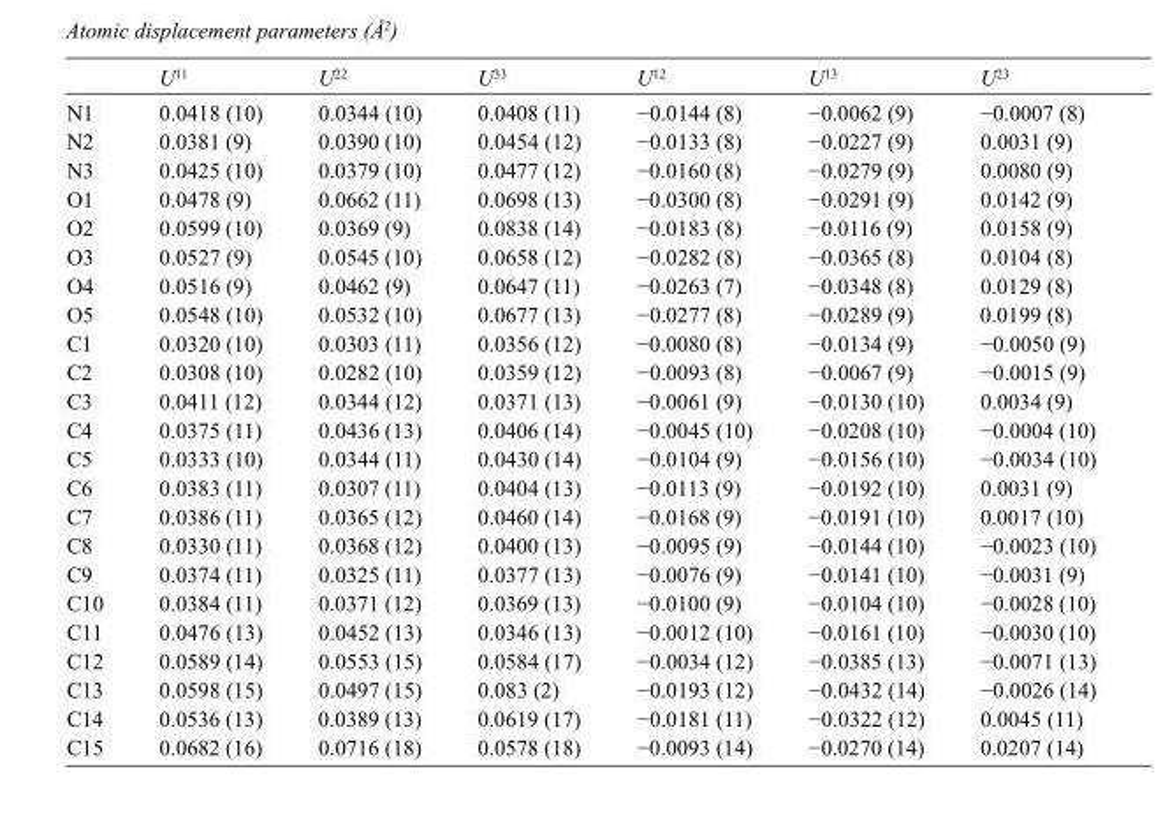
<table><thead><tr><td></td><td>U<sup>11</sup></td><td>U<sup>22</sup></td><td>U<sup>33</sup></td><td>U<sup>12</sup></td><td>U<sup>13</sup></td><td>U<sup>23</sup></td></tr></thead><tbody><tr><td>N1</td><td>0.0418 (10)</td><td>0.0344 (10)</td><td>0.0408 (11)</td><td>−0.0144 (8)</td><td>−0.0062 (9)</td><td>−0.0007 (8)</td></tr><tr><td>N2</td><td>0.0381 (9)</td><td>0.0390 (10)</td><td>0.0454 (12)</td><td>−0.0133 (8)</td><td>−0.0227 (9)</td><td>0.0031 (9)</td></tr><tr><td>N3</td><td>0.0425 (10)</td><td>0.0379 (10)</td><td>0.0477 (12)</td><td>−0.0160 (8)</td><td>−0.0279 (9)</td><td>0.0080 (9)</td></tr><tr><td>O1</td><td>0.0478 (9)</td><td>0.0662 (11)</td><td>0.0698 (13)</td><td>−0.0300 (8)</td><td>−0.0291 (9)</td><td>0.0142 (9)</td></tr><tr><td>O2</td><td>0.0599 (10)</td><td>0.0369 (9)</td><td>0.0838 (14)</td><td>−0.0183 (8)</td><td>−0.0116 (9)</td><td>0.0158 (9)</td></tr><tr><td>O3</td><td>0.0527 (9)</td><td>0.0545 (10)</td><td>0.0658 (12)</td><td>−0.0282 (8)</td><td>−0.0365 (8)</td><td>0.0104 (8)</td></tr><tr><td>O4</td><td>0.0516 (9)</td><td>0.0462 (9)</td><td>0.0647 (11)</td><td>−0.0263 (7)</td><td>−0.0348 (8)</td><td>0.0129 (8)</td></tr><tr><td>O5</td><td>0.0548 (10)</td><td>0.0532 (10)</td><td>0.0677 (13)</td><td>−0.0277 (8)</td><td>−0.0289 (9)</td><td>0.0199 (8)</td></tr><tr><td>C1</td><td>0.0320 (10)</td><td>0.0303 (11)</td><td>0.0356 (12)</td><td>−0.0080 (8)</td><td>−0.0134 (9)</td><td>−0.0050 (9)</td></tr><tr><td>C2</td><td>0.0308 (10)</td><td>0.0282 (10)</td><td>0.0359 (12)</td><td>−0.0093 (8)</td><td>−0.0067 (9)</td><td>−0.0015 (9)</td></tr><tr><td>C3</td><td>0.0411 (12)</td><td>0.0344 (12)</td><td>0.0371 (13)</td><td>−0.0061 (9)</td><td>−0.0130 (10)</td><td>0.0034 (9)</td></tr><tr><td>C4</td><td>0.0375 (11)</td><td>0.0436 (13)</td><td>0.0406 (14)</td><td>−0.0045 (10)</td><td>−0.0208 (10)</td><td>−0.0004 (10)</td></tr><tr><td>C5</td><td>0.0333 (10)</td><td>0.0344 (11)</td><td>0.0430 (14)</td><td>−0.0104 (9)</td><td>−0.0156 (10)</td><td>−0.0034 (10)</td></tr><tr><td>C6</td><td>0.0383 (11)</td><td>0.0307 (11)</td><td>0.0404 (13)</td><td>−0.0113 (9)</td><td>−0.0192 (10)</td><td>0.0031 (9)</td></tr><tr><td>C7</td><td>0.0386 (11)</td><td>0.0365 (12)</td><td>0.0460 (14)</td><td>−0.0168 (9)</td><td>−0.0191 (10)</td><td>0.0017 (10)</td></tr><tr><td>C8</td><td>0.0330 (11)</td><td>0.0368 (12)</td><td>0.0400 (13)</td><td>−0.0095 (9)</td><td>−0.0144 (10)</td><td>−0.0023 (10)</td></tr><tr><td>C9</td><td>0.0374 (11)</td><td>0.0325 (11)</td><td>0.0377 (13)</td><td>−0.0076 (9)</td><td>−0.0141 (10)</td><td>−0.0031 (9)</td></tr><tr><td>C10</td><td>0.0384 (11)</td><td>0.0371 (12)</td><td>0.0369 (13)</td><td>−0.0100 (9)</td><td>−0.0104 (10)</td><td>−0.0028 (10)</td></tr><tr><td>C11</td><td>0.0476 (13)</td><td>0.0452 (13)</td><td>0.0346 (13)</td><td>−0.0012 (10)</td><td>−0.0161 (10)</td><td>−0.0030 (10)</td></tr><tr><td>C12</td><td>0.0589 (14)</td><td>0.0553 (15)</td><td>0.0584 (17)</td><td>−0.0034 (12)</td><td>−0.0385 (13)</td><td>−0.0071 (13)</td></tr><tr><td>C13</td><td>0.0598 (15)</td><td>0.0497 (15)</td><td>0.083 (2)</td><td>−0.0193 (12)</td><td>−0.0432 (14)</td><td>−0.0026 (14)</td></tr><tr><td>C14</td><td>0.0536 (13)</td><td>0.0389 (13)</td><td>0.0619 (17)</td><td>−0.0181 (11)</td><td>−0.0322 (12)</td><td>0.0045 (11)</td></tr><tr><td>C15</td><td>0.0682 (16)</td><td>0.0716 (18)</td><td>0.0578 (18)</td><td>−0.0093 (14)</td><td>−0.0270 (14)</td><td>0.0207 (14)</td></tr></tbody></table>